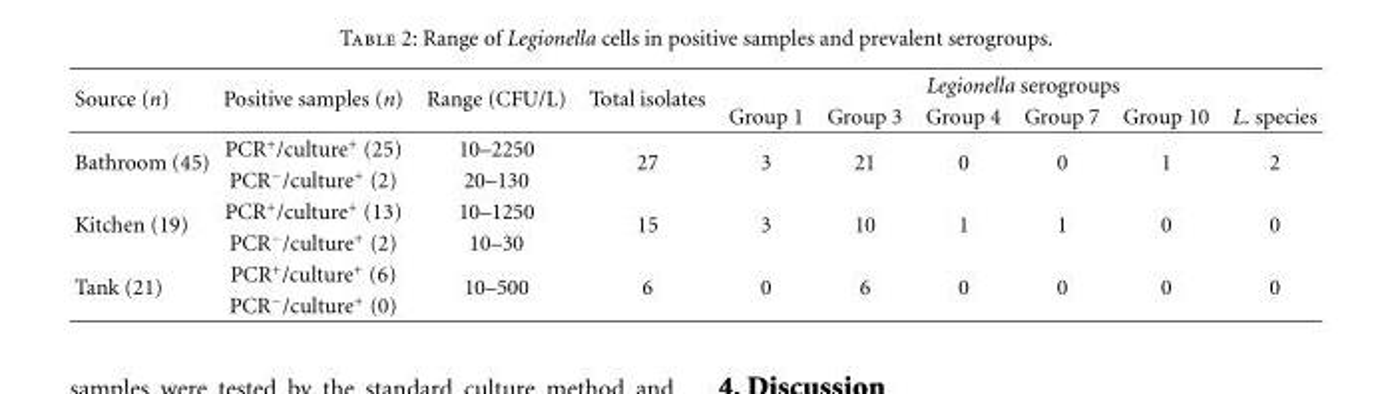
<table><thead><tr><td rowspan="2">Source (n)</td><td rowspan="2">Positive samples (n)</td><td rowspan="2">Range (CFU/L)</td><td rowspan="2">Total isolates</td><td colspan="6">Legionella serogroups</td></tr><tr><td>Group 1</td><td>Group 3</td><td>Group 4</td><td>Group 7</td><td>Group 10</td><td>L. species</td></tr></thead><tbody><tr><td rowspan="2">Bathroom (45)</td><td>PCR<sup>+</sup>/culture<sup>+</sup> (25)</td><td>10–2250</td><td rowspan="2">27</td><td rowspan="2">3</td><td rowspan="2">21</td><td rowspan="2">0</td><td rowspan="2">0</td><td rowspan="2">1</td><td rowspan="2">2</td></tr><tr><td>PCR<sup>−</sup>/culture<sup>+</sup> (2)</td><td>20–130</td></tr><tr><td rowspan="2">Kitchen (19)</td><td>PCR<sup>+</sup>/culture<sup>+</sup> (13)</td><td>10–1250</td><td rowspan="2">15</td><td rowspan="2">3</td><td rowspan="2">10</td><td rowspan="2">1</td><td rowspan="2">1</td><td rowspan="2">0</td><td rowspan="2">0</td></tr><tr><td>PCR<sup>−</sup>/culture<sup>+</sup> (2)</td><td>10–30</td></tr><tr><td rowspan="2">Tank (21)</td><td>PCR<sup>+</sup>/culture<sup>+</sup> (6)</td><td rowspan="2">10–500</td><td rowspan="2">6</td><td rowspan="2">0</td><td rowspan="2">6</td><td rowspan="2">0</td><td rowspan="2">0</td><td rowspan="2">0</td><td rowspan="2">0</td></tr><tr><td>PCR<sup>−</sup>/culture<sup>+</sup> (0)</td></tr></tbody></table>